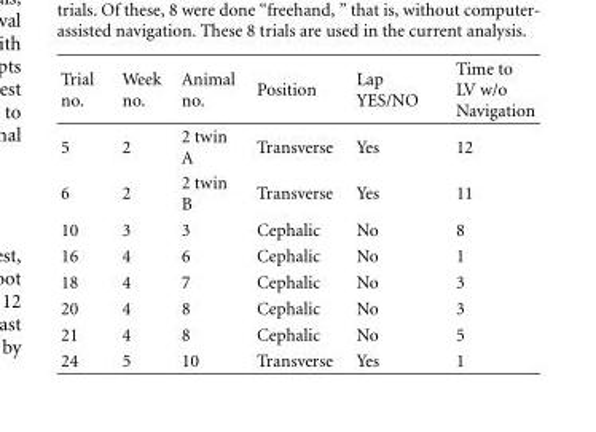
<table><thead><tr><td>Trial no.</td><td>Week no.</td><td>Animal no.</td><td>Position</td><td>Lap YES/NO</td><td>Time to LV w/o Navigation</td></tr></thead><tbody><tr><td>5</td><td>2</td><td>2 twin A</td><td>Transverse</td><td>Yes</td><td>12</td></tr><tr><td>6</td><td>2</td><td>2 twin B</td><td>Transverse</td><td>Yes</td><td>11</td></tr><tr><td>10</td><td>3</td><td>3</td><td>Cephalic</td><td>No</td><td>8</td></tr><tr><td>16</td><td>4</td><td>6</td><td>Cephalic</td><td>No</td><td>1</td></tr><tr><td>18</td><td>4</td><td>7</td><td>Cephalic</td><td>No</td><td>3</td></tr><tr><td>20</td><td>4</td><td>8</td><td>Cephalic</td><td>No</td><td>3</td></tr><tr><td>21</td><td>4</td><td>8</td><td>Cephalic</td><td>No</td><td>5</td></tr><tr><td>24</td><td>5</td><td>10</td><td>Transverse</td><td>Yes</td><td>1</td></tr></tbody></table>